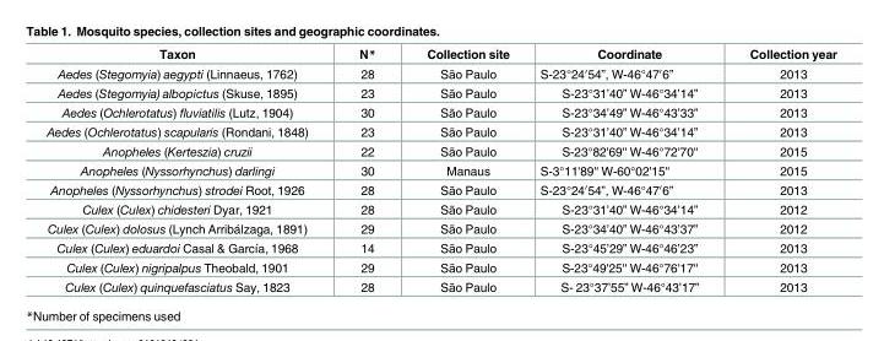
<table><thead><tr><td>Taxon</td><td>N*</td><td>Collection site</td><td>Coordinate</td><td>Collection year</td></tr></thead><tbody><tr><td>Aedes (Stegomyia) aegypti (Linnaeus, 1762)</td><td>28</td><td>São Paulo</td><td>S-23°24′54”, W-46°47′6”</td><td>2013</td></tr><tr><td>Aedes (Stegomyia) albopictus (Skuse, 1895)</td><td>23</td><td>São Paulo</td><td>S-23°31’40” W-46°34’14”</td><td>2013</td></tr><tr><td>Aedes (Ochlerotatus) fluviatilis (Lutz, 1904)</td><td>30</td><td>São Paulo</td><td>S-23°34’49” W-46°43’33”</td><td>2013</td></tr><tr><td>Aedes (Ochlerotatus) scapularis (Rondani, 1848)</td><td>23</td><td>São Paulo</td><td>S-23°31’40” W-46°34’14”</td><td>2013</td></tr><tr><td>Anopheles (Kerteszia) cruzii</td><td>22</td><td>São Paulo</td><td>S-23°82&#x27;69&#x27;&#x27; W-46°72&#x27;70&#x27;&#x27;</td><td>2015</td></tr><tr><td>Anopheles (Nyssorhynchus) darlingi</td><td>30</td><td>Manaus</td><td>S-3°11&#x27;89&#x27;&#x27; W-60°02&#x27;15&#x27;&#x27;</td><td>2015</td></tr><tr><td>Anopheles (Nyssorhynchus) strodei Root, 1926</td><td>28</td><td>São Paulo</td><td>S-23°24′54”, W-46°47′6”</td><td>2013</td></tr><tr><td>Culex (Culex) chidesteri Dyar, 1921</td><td>28</td><td>São Paulo</td><td>S-23°31’40” W-46°34’14”</td><td>2012</td></tr><tr><td>Culex (Culex) dolosus (Lynch Arribálzaga, 1891)</td><td>29</td><td>São Paulo</td><td>S-23°34’40” W-46°43’37”</td><td>2012</td></tr><tr><td>Culex (Culex) eduardoi Casal &amp; García, 1968</td><td>14</td><td>São Paulo</td><td>S-23°45’29” W-46°46’23”</td><td>2013</td></tr><tr><td>Culex (Culex) nigripalpus Theobald, 1901</td><td>29</td><td>São Paulo</td><td>S-23°49&#x27;25&#x27;&#x27; W-46°76&#x27;17&#x27;&#x27;</td><td>2013</td></tr><tr><td>Culex (Culex) quinquefasciatus Say, 1823</td><td>28</td><td>São Paulo</td><td>S- 23°37’55” W-46°43’17”</td><td>2013</td></tr></tbody></table>